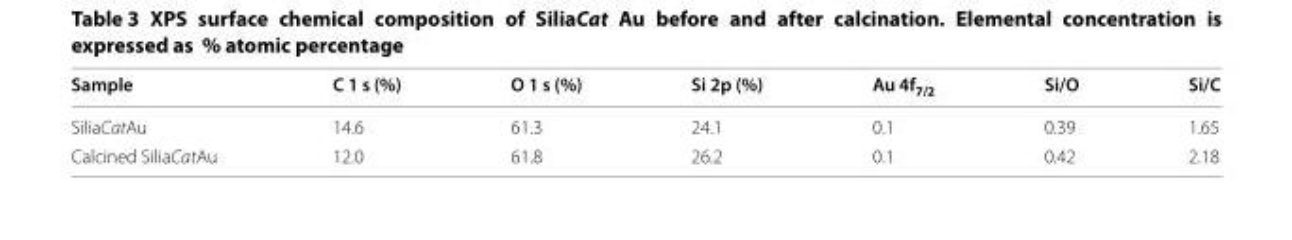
<table><thead><tr><td>Sample</td><td>C 1 s (%)</td><td>O 1 s (%)</td><td>Si 2p (%)</td><td>Au 4f<sub>7/2</sub></td><td>Si/O</td><td>Si/C</td></tr></thead><tbody><tr><td>SiliaCatAu</td><td>14.6</td><td>61.3</td><td>24.1</td><td>0.1</td><td>0.39</td><td>1.65</td></tr><tr><td>Calcined SiliaCatAu</td><td>12.0</td><td>61.8</td><td>26.2</td><td>0.1</td><td>0.42</td><td>2.18</td></tr></tbody></table>